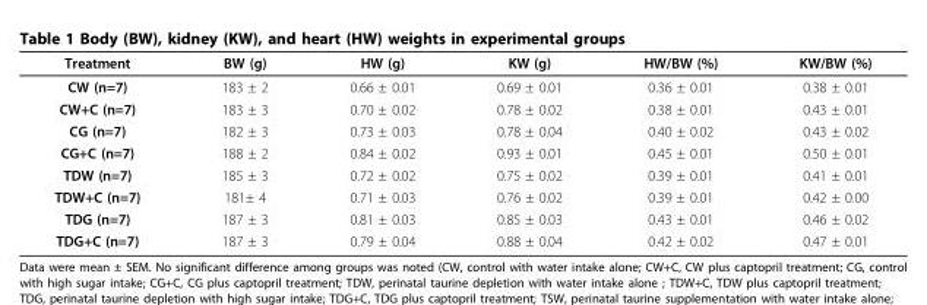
<table><thead><tr><td>Treatment</td><td>BW (g)</td><td>HW (g)</td><td>KW (g)</td><td>HW/BW (%)</td><td>KW/BW (%)</td></tr></thead><tbody><tr><td>CW (n=7)</td><td>183 ± 2</td><td>0.66 ± 0.01</td><td>0.69 ± 0.01</td><td>0.36 ± 0.01</td><td>0.38 ± 0.01</td></tr><tr><td>CW+C (n=7)</td><td>183 ± 3</td><td>0.70 ± 0.02</td><td>0.78 ± 0.02</td><td>0.38 ± 0.01</td><td>0.43 ± 0.01</td></tr><tr><td>CG (n=7)</td><td>182 ± 3</td><td>0.73 ± 0.03</td><td>0.78 ± 0.04</td><td>0.40 ± 0.02</td><td>0.43 ± 0.02</td></tr><tr><td>CG+C (n=7)</td><td>188 ± 2</td><td>0.84 ± 0.02</td><td>0.93 ± 0.01</td><td>0.45 ± 0.01</td><td>0.50 ± 0.01</td></tr><tr><td>TDW (n=7)</td><td>185 ± 3</td><td>0.72 ± 0.02</td><td>0.75 ± 0.02</td><td>0.39 ± 0.01</td><td>0.41 ± 0.01</td></tr><tr><td>TDW+C (n=7)</td><td>181± 4</td><td>0.71 ± 0.03</td><td>0.76 ± 0.02</td><td>0.39 ± 0.01</td><td>0.42 ± 0.00</td></tr><tr><td>TDG (n=7)</td><td>187 ± 3</td><td>0.81 ± 0.03</td><td>0.85 ± 0.03</td><td>0.43 ± 0.01</td><td>0.46 ± 0.02</td></tr><tr><td>TDG+C (n=7)</td><td>187 ± 3</td><td>0.79 ± 0.04</td><td>0.88 ± 0.04</td><td>0.42 ± 0.02</td><td>0.47 ± 0.01</td></tr></tbody></table>